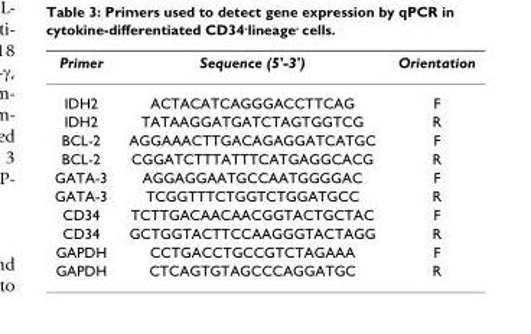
<table><thead><tr><td>Primer</td><td>Sequence (5&#x27;-3&#x27;)</td><td>Orientation</td></tr></thead><tbody><tr><td>IDH2</td><td>ACTACATCAGGGACCTTCAG</td><td>F</td></tr><tr><td>IDH2</td><td>TATAAGGATGATCTAGTGGTCG</td><td>R</td></tr><tr><td>BCL-2</td><td>AGGAAACTTGACAGAGGATCATGC</td><td>F</td></tr><tr><td>BCL-2</td><td>CGGATCTTTATTTCATGAGGCACG</td><td>R</td></tr><tr><td>GATA-3</td><td>AGGAGGAATGCCAATGGGGAC</td><td>F</td></tr><tr><td>GATA-3</td><td>TCGGTTTCTGGTCTGGATGCC</td><td>R</td></tr><tr><td>CD34</td><td>TCTTGACAACAACGGTACTGCTAC</td><td>F</td></tr><tr><td>CD34</td><td>GCTGGTACTTCCAAGGGTACTAGG</td><td>R</td></tr><tr><td>GAPDH</td><td>CCTGACCTGCCGTCTAGAAA</td><td>F</td></tr><tr><td>GAPDH</td><td>CTCAGTGTAGCCCAGGATGC</td><td>R</td></tr></tbody></table>